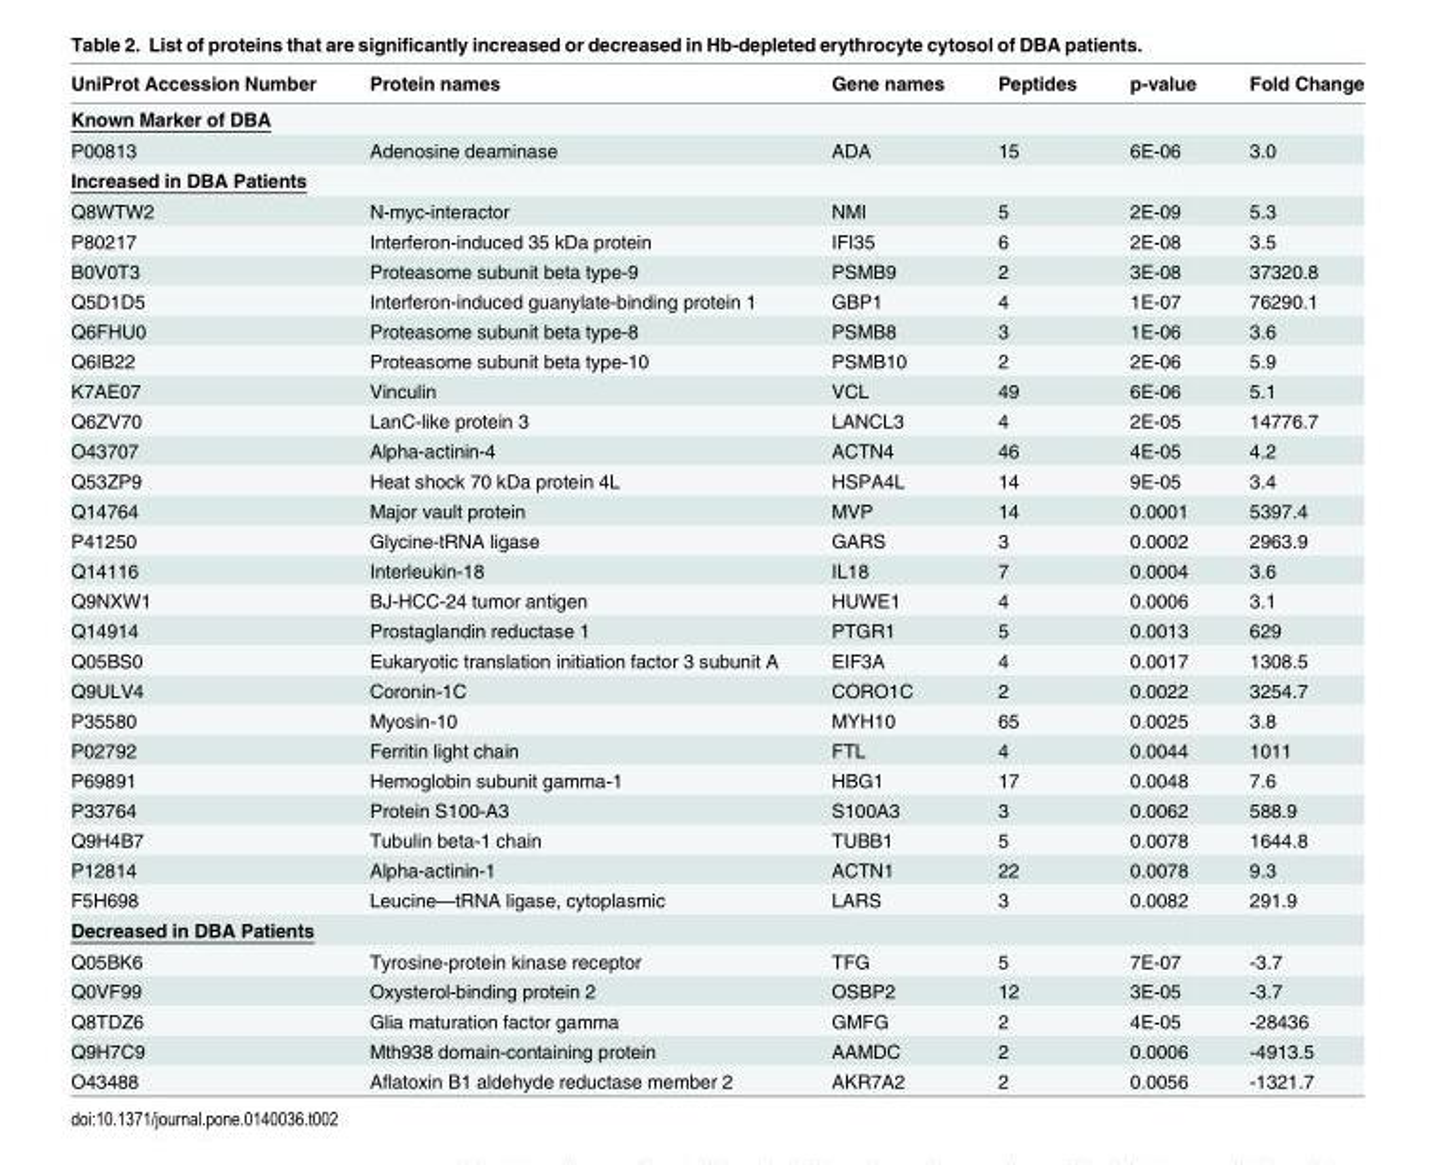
<table><thead><tr><td>UniProt Accession Number</td><td>Protein names</td><td>Gene names</td><td>Peptides</td><td>p-value</td><td>Fold Change</td></tr></thead><tbody><tr><td colspan="6">Known Marker of DBA</td></tr><tr><td>P00813</td><td>Adenosine deaminase</td><td>ADA</td><td>15</td><td>6E-06</td><td>3.0</td></tr><tr><td colspan="6">Increased in DBA Patients</td></tr><tr><td>Q8WTW2</td><td>N-myc-interactor</td><td>NMI</td><td>5</td><td>2E-09</td><td>5.3</td></tr><tr><td>P80217</td><td>Interferon-induced 35 kDa protein</td><td>IFI35</td><td>6</td><td>2E-08</td><td>3.5</td></tr><tr><td>B0V0T3</td><td>Proteasome subunit beta type-9</td><td>PSMB9</td><td>2</td><td>3E-08</td><td>37320.8</td></tr><tr><td>Q5D1D5</td><td>Interferon-induced guanylate-binding protein 1</td><td>GBP1</td><td>4</td><td>1E-07</td><td>76290.1</td></tr><tr><td>Q6FHU0</td><td>Proteasome subunit beta type-8</td><td>PSMB8</td><td>3</td><td>1E-06</td><td>3.6</td></tr><tr><td>Q6IB22</td><td>Proteasome subunit beta type-10</td><td>PSMB10</td><td>2</td><td>2E-06</td><td>5.9</td></tr><tr><td>K7AE07</td><td>Vinculin</td><td>VCL</td><td>49</td><td>6E-06</td><td>5.1</td></tr><tr><td>Q6ZV70</td><td>LanC-like protein 3</td><td>LANCL3</td><td>4</td><td>2E-05</td><td>14776.7</td></tr><tr><td>O43707</td><td>Alpha-actinin-4</td><td>ACTN4</td><td>46</td><td>4E-05</td><td>4.2</td></tr><tr><td>Q53ZP9</td><td>Heat shock 70 kDa protein 4L</td><td>HSPA4L</td><td>14</td><td>9E-05</td><td>3.4</td></tr><tr><td>Q14764</td><td>Major vault protein</td><td>MVP</td><td>14</td><td>0.0001</td><td>5397.4</td></tr><tr><td>P41250</td><td>Glycine-tRNA ligase</td><td>GARS</td><td>3</td><td>0.0002</td><td>2963.9</td></tr><tr><td>Q14116</td><td>Interleukin-18</td><td>IL18</td><td>7</td><td>0.0004</td><td>3.6</td></tr><tr><td>Q9NXW1</td><td>BJ-HCC-24 tumor antigen</td><td>HUWE1</td><td>4</td><td>0.0006</td><td>3.1</td></tr><tr><td>Q14914</td><td>Prostaglandin reductase 1</td><td>PTGR1</td><td>5</td><td>0.0013</td><td>629</td></tr><tr><td>Q05BS0</td><td>Eukaryotic translation initiation factor 3 subunit A</td><td>EIF3A</td><td>4</td><td>0.0017</td><td>1308.5</td></tr><tr><td>Q9ULV4</td><td>Coronin-1C</td><td>CORO1C</td><td>2</td><td>0.0022</td><td>3254.7</td></tr><tr><td>P35580</td><td>Myosin-10</td><td>MYH10</td><td>65</td><td>0.0025</td><td>3.8</td></tr><tr><td>P02792</td><td>Ferritin light chain</td><td>FTL</td><td>4</td><td>0.0044</td><td>1011</td></tr><tr><td>P69891</td><td>Hemoglobin subunit gamma-1</td><td>HBG1</td><td>17</td><td>0.0048</td><td>7.6</td></tr><tr><td>P33764</td><td>Protein S100-A3</td><td>S100A3</td><td>3</td><td>0.0062</td><td>588.9</td></tr><tr><td>Q9H4B7</td><td>Tubulin beta-1 chain</td><td>TUBB1</td><td>5</td><td>0.0078</td><td>1644.8</td></tr><tr><td>P12814</td><td>Alpha-actinin-1</td><td>ACTN1</td><td>22</td><td>0.0078</td><td>9.3</td></tr><tr><td>F5H698</td><td>Leucine—tRNA ligase, cytoplasmic</td><td>LARS</td><td>3</td><td>0.0082</td><td>291.9</td></tr><tr><td colspan="6">Decreased in DBA Patients</td></tr><tr><td>Q05BK6</td><td>Tyrosine-protein kinase receptor</td><td>TFG</td><td>5</td><td>7E-07</td><td>-3.7</td></tr><tr><td>Q0VF99</td><td>Oxysterol-binding protein 2</td><td>OSBP2</td><td>12</td><td>3E-05</td><td>-3.7</td></tr><tr><td>Q8TDZ6</td><td>Glia maturation factor gamma</td><td>GMFG</td><td>2</td><td>4E-05</td><td>-28436</td></tr><tr><td>Q9H7C9</td><td>Mth938 domain-containing protein</td><td>AAMDC</td><td>2</td><td>0.0006</td><td>-4913.5</td></tr><tr><td>O43488</td><td>Aflatoxin B1 aldehyde reductase member 2</td><td>AKR7A2</td><td>2</td><td>0.0056</td><td>-1321.7</td></tr></tbody></table>